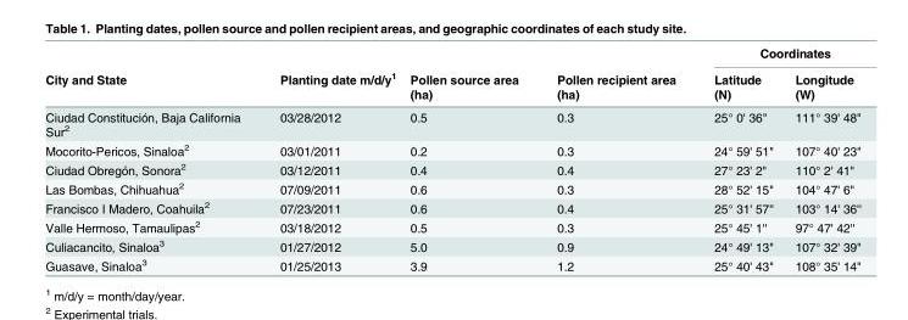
<table><thead><tr><td rowspan="2">City and State</td><td rowspan="2">Planting date m/d/y<sup>1</sup></td><td rowspan="2">Pollen source area (ha)</td><td rowspan="2">Pollen recipient area (ha)</td><td colspan="2">Coordinates</td></tr><tr><td>Latitude (N)</td><td>Longitude (W)</td></tr></thead><tbody><tr><td>Ciudad Constitución, Baja California Sur<sup>2</sup></td><td>03/28/2012</td><td>0.5</td><td>0.3</td><td>25° 0&#x27; 36&quot;</td><td>111° 39&#x27; 48&quot;</td></tr><tr><td>Mocorito-Pericos, Sinaloa<sup>2</sup></td><td>03/01/2011</td><td>0.2</td><td>0.3</td><td>24° 59&#x27; 51&quot;</td><td>107° 40&#x27; 23&quot;</td></tr><tr><td>Ciudad Obregón, Sonora<sup>2</sup></td><td>03/12/2011</td><td>0.4</td><td>0.4</td><td>27° 23&#x27; 2&quot;</td><td>110° 2&#x27; 41&quot;</td></tr><tr><td>Las Bombas, Chihuahua<sup>2</sup></td><td>07/09/2011</td><td>0.6</td><td>0.3</td><td>28° 52&#x27; 15&quot;</td><td>104° 47&#x27; 6&quot;</td></tr><tr><td>Francisco I Madero, Coahuila<sup>2</sup></td><td>07/23/2011</td><td>0.6</td><td>0.4</td><td>25° 31&#x27; 57&#x27;&#x27;</td><td>103° 14&#x27; 36&#x27;&#x27;</td></tr><tr><td>Valle Hermoso, Tamaulipas<sup>2</sup></td><td>03/18/2012</td><td>0.5</td><td>0.3</td><td>25° 45&#x27; 1&#x27;&#x27;</td><td>97° 47&#x27; 42&#x27;&#x27;</td></tr><tr><td>Culiacancito, Sinaloa<sup>3</sup></td><td>01/27/2012</td><td>5.0</td><td>0.9</td><td>24° 49&#x27; 13&quot;</td><td>107° 32&#x27; 39&quot;</td></tr><tr><td>Guasave, Sinaloa<sup>3</sup></td><td>01/25/2013</td><td>3.9</td><td>1.2</td><td>25° 40&#x27; 43&quot;</td><td>108° 35&#x27; 14&quot;</td></tr></tbody></table>